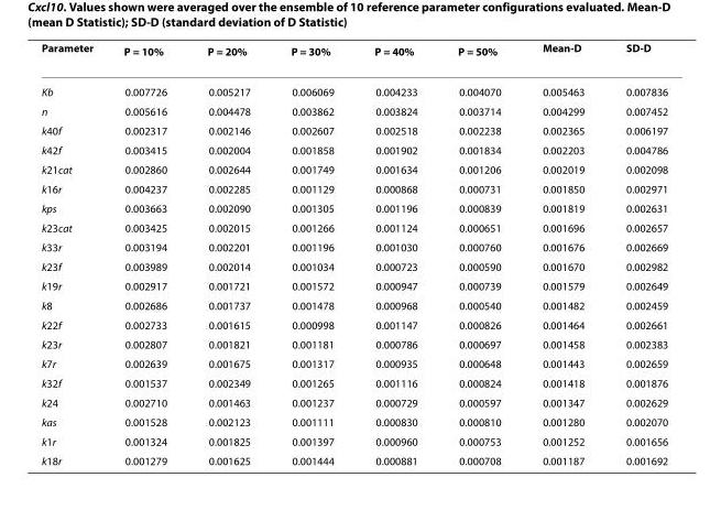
<table><thead><tr><td>Parameter</td><td>P = 10%</td><td>P = 20%</td><td>P = 30%</td><td>P = 40%</td><td>P = 50%</td><td>Mean-D</td><td>SD-D</td></tr></thead><tbody><tr><td>Kb</td><td>0.007726</td><td>0.005217</td><td>0.006069</td><td>0.004233</td><td>0.004070</td><td>0.005463</td><td>0.007836</td></tr><tr><td>n</td><td>0.005616</td><td>0.004478</td><td>0.003862</td><td>0.003824</td><td>0.003714</td><td>0.004299</td><td>0.007452</td></tr><tr><td>k40f</td><td>0.002317</td><td>0.002146</td><td>0.002607</td><td>0.002518</td><td>0.002238</td><td>0.002365</td><td>0.006197</td></tr><tr><td>k42f</td><td>0.003415</td><td>0.002004</td><td>0.001858</td><td>0.001902</td><td>0.001834</td><td>0.002203</td><td>0.004786</td></tr><tr><td>k21cat</td><td>0.002860</td><td>0.002644</td><td>0.001749</td><td>0.001634</td><td>0.001206</td><td>0.002019</td><td>0.002098</td></tr><tr><td>k16r</td><td>0.004237</td><td>0.002285</td><td>0.001129</td><td>0.000868</td><td>0.000731</td><td>0.001850</td><td>0.002971</td></tr><tr><td>kps</td><td>0.003663</td><td>0.002090</td><td>0.001305</td><td>0.001196</td><td>0.000839</td><td>0.001819</td><td>0.002631</td></tr><tr><td>k23cat</td><td>0.003425</td><td>0.002015</td><td>0.001266</td><td>0.001124</td><td>0.000651</td><td>0.001696</td><td>0.002657</td></tr><tr><td>k33r</td><td>0.003194</td><td>0.002201</td><td>0.001196</td><td>0.001030</td><td>0.000760</td><td>0.001676</td><td>0.002669</td></tr><tr><td>k23f</td><td>0.003989</td><td>0.002014</td><td>0.001034</td><td>0.000723</td><td>0.000590</td><td>0.001670</td><td>0.002982</td></tr><tr><td>k19r</td><td>0.002917</td><td>0.001721</td><td>0.001572</td><td>0.000947</td><td>0.000739</td><td>0.001579</td><td>0.002649</td></tr><tr><td>k8</td><td>0.002686</td><td>0.001737</td><td>0.001478</td><td>0.000968</td><td>0.000540</td><td>0.001482</td><td>0.002459</td></tr><tr><td>k22f</td><td>0.002733</td><td>0.001615</td><td>0.000998</td><td>0.001147</td><td>0.000826</td><td>0.001464</td><td>0.002661</td></tr><tr><td>k23r</td><td>0.002807</td><td>0.001821</td><td>0.001181</td><td>0.000786</td><td>0.000697</td><td>0.001458</td><td>0.002383</td></tr><tr><td>k7r</td><td>0.002639</td><td>0.001675</td><td>0.001317</td><td>0.000935</td><td>0.000648</td><td>0.001443</td><td>0.002659</td></tr><tr><td>k32f</td><td>0.001537</td><td>0.002349</td><td>0.001265</td><td>0.001116</td><td>0.000824</td><td>0.001418</td><td>0.001876</td></tr><tr><td>k24</td><td>0.002710</td><td>0.001463</td><td>0.001237</td><td>0.000729</td><td>0.000597</td><td>0.001347</td><td>0.002629</td></tr><tr><td>kas</td><td>0.001528</td><td>0.002123</td><td>0.001111</td><td>0.000830</td><td>0.000810</td><td>0.001280</td><td>0.002070</td></tr><tr><td>k1r</td><td>0.001324</td><td>0.001825</td><td>0.001397</td><td>0.000960</td><td>0.000753</td><td>0.001252</td><td>0.001656</td></tr><tr><td>k18r</td><td>0.001279</td><td>0.001625</td><td>0.001444</td><td>0.000881</td><td>0.000708</td><td>0.001187</td><td>0.001692</td></tr></tbody></table>